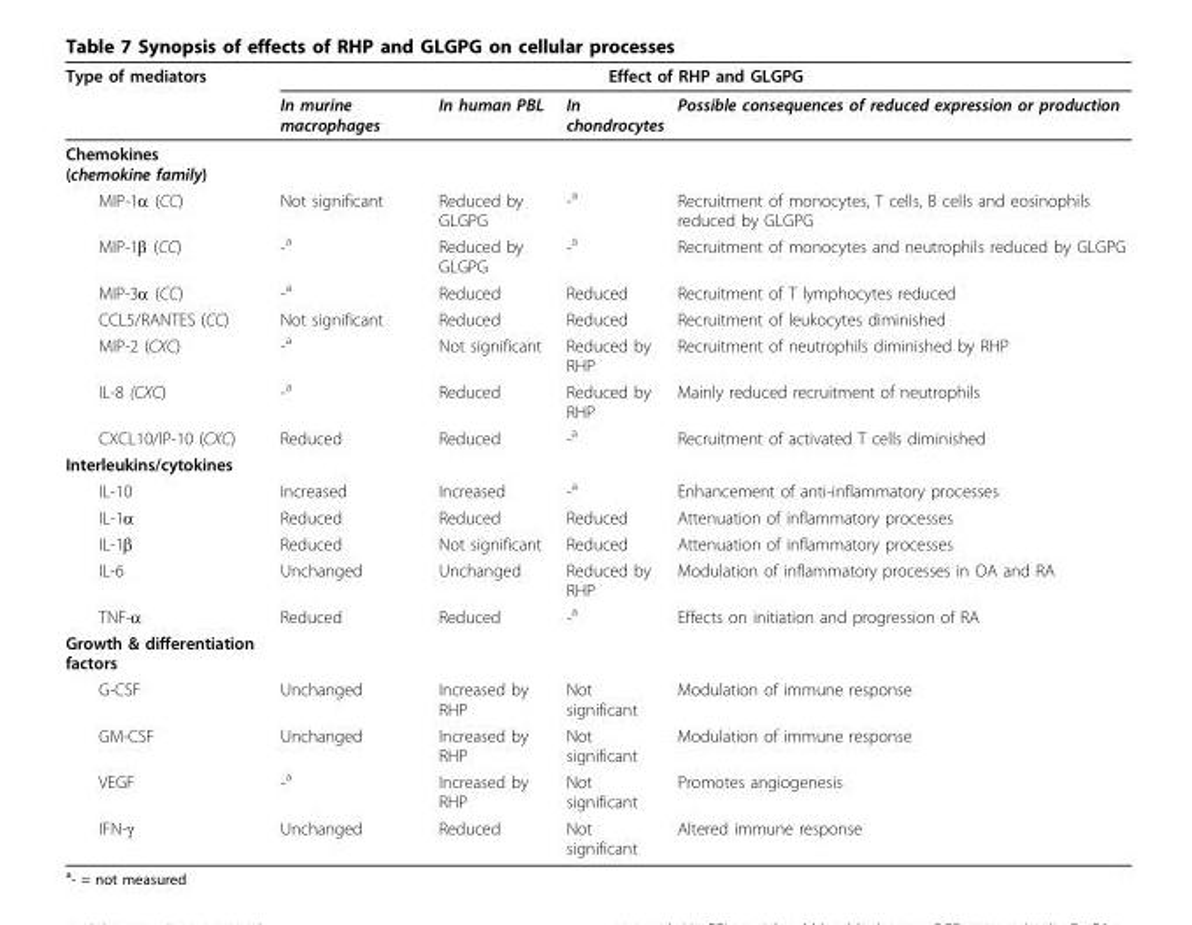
<table><thead><tr><td rowspan="2">Type of mediators</td><td colspan="4">Effect of RHP and GLGPG</td></tr><tr><td>In murine macrophages</td><td>In human PBL</td><td>In chondrocytes</td><td>Possible consequences of reduced expression or production</td></tr></thead><tbody><tr><td colspan="5">Chemokines (chemokine family)</td></tr><tr><td>MIP-1α (CC)</td><td>Not significant</td><td>Reduced by GLGPG</td><td>-<sup>a</sup></td><td>Recruitment of monocytes, T cells, B cells and eosinophils reduced by GLGPG</td></tr><tr><td>MIP-1β (CC)</td><td>-<sup>a</sup></td><td>Reduced by GLGPG</td><td>-<sup>a</sup></td><td>Recruitment of monocytes and neutrophils reduced by GLGPG</td></tr><tr><td>MIP-3α (CC)</td><td>-<sup>a</sup></td><td>Reduced</td><td>Reduced</td><td>Recruitment of T lymphocytes reduced</td></tr><tr><td>CCL5/RANTES (CC)</td><td>Not significant</td><td>Reduced</td><td>Reduced</td><td>Recruitment of leukocytes diminished</td></tr><tr><td>MIP-2 (CXC)</td><td>-<sup>a</sup></td><td>Not significant</td><td>Reduced by RHP</td><td>Recruitment of neutrophils diminished by RHP</td></tr><tr><td>IL-8 (CXC)</td><td>-<sup>a</sup></td><td>Reduced</td><td>Reduced by RHP</td><td>Mainly reduced recruitment of neutrophils</td></tr><tr><td>CXCL10/IP-10 (CXC)</td><td>Reduced</td><td>Reduced</td><td>-<sup>a</sup></td><td>Recruitment of activated T cells diminished</td></tr><tr><td colspan="5">Interleukins/cytokines</td></tr><tr><td>IL-10</td><td>Increased</td><td>Increased</td><td>-<sup>a</sup></td><td>Enhancement of anti-inflammatory processes</td></tr><tr><td>IL-1α</td><td>Reduced</td><td>Reduced</td><td>Reduced</td><td>Attenuation of inflammatory processes</td></tr><tr><td>IL-1β</td><td>Reduced</td><td>Not significant</td><td>Reduced</td><td>Attenuation of inflammatory processes</td></tr><tr><td>IL-6</td><td>Unchanged</td><td>Unchanged</td><td>Reduced by RHP</td><td>Modulation of inflammatory processes in OA and RA</td></tr><tr><td>TNF-α</td><td>Reduced</td><td>Reduced</td><td>-<sup>a</sup></td><td>Effects on initiation and progression of RA</td></tr><tr><td colspan="5">Growth &amp; differentiation factors</td></tr><tr><td>G-CSF</td><td>Unchanged</td><td>Increased by RHP</td><td>Not significant</td><td>Modulation of immune response</td></tr><tr><td>GM-CSF</td><td>Unchanged</td><td>Increased by RHP</td><td>Not significant</td><td>Modulation of immune response</td></tr><tr><td>VEGF</td><td>-<sup>a</sup></td><td>Increased by RHP</td><td>Not significant</td><td>Promotes angiogenesis</td></tr><tr><td>IFN-γ</td><td>Unchanged</td><td>Reduced</td><td>Not significant</td><td>Altered immune response</td></tr></tbody></table>